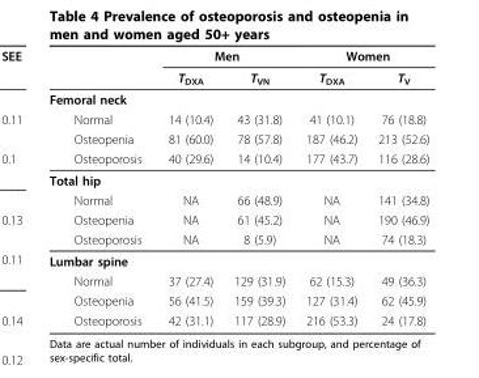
<table><thead><tr><td rowspan="2"></td><td colspan="2">Men</td><td colspan="2">Women</td></tr><tr><td>T<sub>DXA</sub></td><td>T<sub>VN</sub></td><td>T<sub>DXA</sub></td><td>T<sub>V</sub></td></tr></thead><tbody><tr><td colspan="5">Femoral neck</td></tr><tr><td>Normal</td><td>14 (10.4)</td><td>43 (31.8)</td><td>41 (10.1)</td><td>76 (18.8)</td></tr><tr><td>Osteopenia</td><td>81 (60.0)</td><td>78 (57.8)</td><td>187 (46.2)</td><td>213 (52.6)</td></tr><tr><td>Osteoporosis</td><td>40 (29.6)</td><td>14 (10.4)</td><td>177 (43.7)</td><td>116 (28.6)</td></tr><tr><td colspan="5">Total hip</td></tr><tr><td>Normal</td><td>NA</td><td>66 (48.9)</td><td>NA</td><td>141 (34.8)</td></tr><tr><td>Osteopenia</td><td>NA</td><td>61 (45.2)</td><td>NA</td><td>190 (46.9)</td></tr><tr><td>Osteoporosis</td><td>NA</td><td>8 (5.9)</td><td>NA</td><td>74 (18.3)</td></tr><tr><td colspan="5">Lumbar spine</td></tr><tr><td>Normal</td><td>37 (27.4)</td><td>129 (31.9)</td><td>62 (15.3)</td><td>49 (36.3)</td></tr><tr><td>Osteopenia</td><td>56 (41.5)</td><td>159 (39.3)</td><td>127 (31.4)</td><td>62 (45.9)</td></tr><tr><td>Osteoporosis</td><td>42 (31.1)</td><td>117 (28.9)</td><td>216 (53.3)</td><td>24 (17.8)</td></tr></tbody></table>